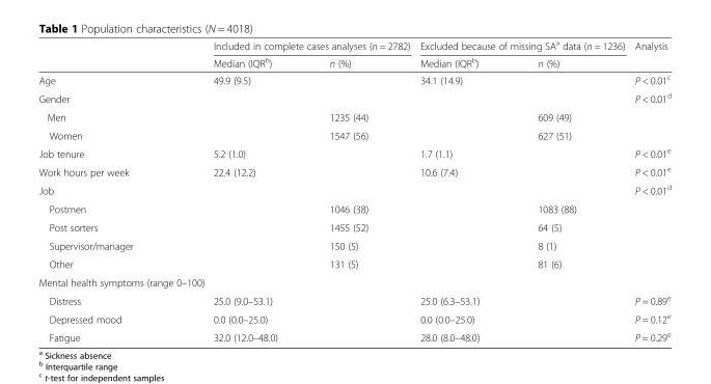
<table><thead><tr><td rowspan="2"></td><td colspan="2">Included in complete cases analyses (n = 2782)</td><td colspan="2">Excluded because of missing SA<sup>a</sup> data (n = 1236)</td><td rowspan="2">Analysis</td></tr><tr><td>Median (IQR<sup>b</sup>)</td><td>n (%)</td><td>Median (IQR<sup>b</sup>)</td><td>n (%)</td></tr></thead><tbody><tr><td>Age</td><td>49.9 (9.5)</td><td></td><td>34.1 (14.9)</td><td></td><td>P &lt; 0.01<sup>c</sup></td></tr><tr><td>Gender</td><td></td><td></td><td></td><td></td><td>P &lt; 0.01<sup>d</sup></td></tr><tr><td>Men</td><td></td><td>1235 (44)</td><td></td><td>609 (49)</td><td></td></tr><tr><td>Women</td><td></td><td>1547 (56)</td><td></td><td>627 (51)</td><td></td></tr><tr><td>Job tenure</td><td>5.2 (1.0)</td><td></td><td>1.7 (1.1)</td><td></td><td>P &lt; 0.01<sup>e</sup></td></tr><tr><td>Work hours per week</td><td>22.4 (12.2)</td><td></td><td>10.6 (7.4)</td><td></td><td>P &lt; 0.01<sup>e</sup></td></tr><tr><td>Job</td><td></td><td></td><td></td><td></td><td>P &lt; 0.01<sup>d</sup></td></tr><tr><td>Postmen</td><td></td><td>1046 (38)</td><td></td><td>1083 (88)</td><td></td></tr><tr><td>Post sorters</td><td></td><td>1455 (52)</td><td></td><td>64 (5)</td><td></td></tr><tr><td>Supervisor/manager</td><td></td><td>150 (5)</td><td></td><td>8 (1)</td><td></td></tr><tr><td>Other</td><td></td><td>131 (5)</td><td></td><td>81 (6)</td><td></td></tr><tr><td colspan="6">Mental health symptoms (range 0–100)</td></tr><tr><td>Distress</td><td>25.0 (9.0–53.1)</td><td></td><td>25.0 (6.3–53.1)</td><td></td><td>P = 0.89<sup>e</sup></td></tr><tr><td>Depressed mood</td><td>0.0 (0.0–25.0)</td><td></td><td>0.0 (0.0–25.0)</td><td></td><td>P = 0.12<sup>e</sup></td></tr><tr><td>Fatigue</td><td>32.0 (12.0–48.0)</td><td></td><td>28.0 (8.0–48.0)</td><td></td><td>P = 0.29<sup>e</sup></td></tr></tbody></table>